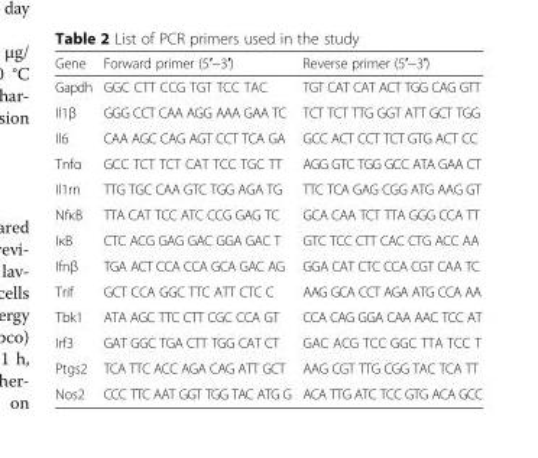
<table><thead><tr><td>Gene</td><td>Forward primer (5′−3′)</td><td>Reverse primer (5′−3′)</td></tr></thead><tbody><tr><td>Gapdh</td><td>GGC CTT CCG TGT TCC TAC</td><td>TGT CAT CAT ACT TGG CAG GTT</td></tr><tr><td>Il1β</td><td>GGG CCT CAA AGG AAA GAA TC</td><td>TCT TCT TTG GGT ATT GCT TGG</td></tr><tr><td>Il6</td><td>CAA AGC CAG AGT CCT TCA GA</td><td>GCC ACT CCT TCT GTG ACT CC</td></tr><tr><td>Tnfα</td><td>GCC TCT TCT CAT TCC TGC TT</td><td>AGG GTC TGG GCC ATA GAA CT</td></tr><tr><td>Il1rn</td><td>TTG TGC CAA GTC TGG AGA TG</td><td>TTC TCA GAG CGG ATG AAG GT</td></tr><tr><td>NfκB</td><td>TTA CAT TCC ATC CCG GAG TC</td><td>GCA CAA TCT TTA GGG CCA TT</td></tr><tr><td>IκB</td><td>CTC ACG GAG GAC GGA GAC T</td><td>GTC TCC CTT CAC CTG ACC AA</td></tr><tr><td>Ifnβ</td><td>TGA ACT CCA CCA GCA GAC AG</td><td>GGA CAT CTC CCA CGT CAA TC</td></tr><tr><td>Trif</td><td>GCT CCA GGC TTC ATT CTC C</td><td>AAG GCA CCT AGA ATG CCA AA</td></tr><tr><td>Tbk1</td><td>ATA AGC TTC CTT CGC CCA GT</td><td>CCA CAG GGA CAA AAC TCC AT</td></tr><tr><td>Irf3</td><td>GAT GGC TGA CTT TGG CAT CT</td><td>GAC ACG TCC GGC TTA TCC T</td></tr><tr><td>Ptgs2</td><td>TCA TTC ACC AGA CAG ATT GCT</td><td>AAG CGT TTG CGG TAC TCA TT</td></tr><tr><td>Nos2</td><td>CCC TTC AAT GGT TGG TAC ATG G</td><td>ACA TTG ATC TCC GTG ACA GCC</td></tr></tbody></table>